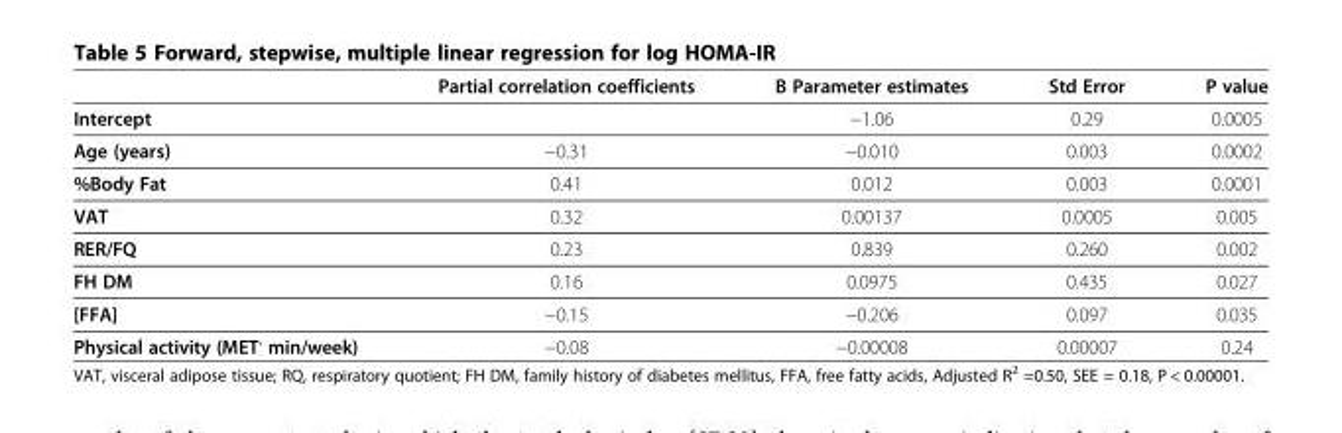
<table><thead><tr><td></td><td>Partial correlation coefficients</td><td>Β Parameter estimates</td><td>Std Error</td><td>P value</td></tr></thead><tbody><tr><td>Intercept</td><td></td><td>−1.06</td><td>0.29</td><td>0.0005</td></tr><tr><td>Age (years)</td><td>−0.31</td><td>−0.010</td><td>0.003</td><td>0.0002</td></tr><tr><td>%Body Fat</td><td>0.41</td><td>0.012</td><td>0.003</td><td>0.0001</td></tr><tr><td>VAT</td><td>0.32</td><td>0.00137</td><td>0.0005</td><td>0.005</td></tr><tr><td>RER/FQ</td><td>0.23</td><td>0.839</td><td>0.260</td><td>0.002</td></tr><tr><td>FH DM</td><td>0.16</td><td>0.0975</td><td>0.435</td><td>0.027</td></tr><tr><td>[FFA]</td><td>−0.15</td><td>−0.206</td><td>0.097</td><td>0.035</td></tr><tr><td>Physical activity (MET<sup>.</sup> min/week)</td><td>−0.08</td><td>−0.00008</td><td>0.00007</td><td>0.24</td></tr></tbody></table>